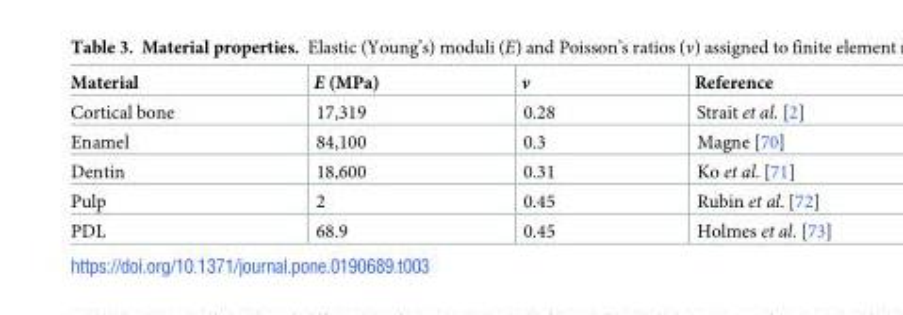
<table><thead><tr><td>Material</td><td>E (MPa)</td><td>v</td><td>Reference</td></tr></thead><tbody><tr><td>Cortical bone</td><td>17,319</td><td>0.28</td><td>Strait et al. [2]</td></tr><tr><td>Enamel</td><td>84,100</td><td>0.3</td><td>Magne [70]</td></tr><tr><td>Dentin</td><td>18,600</td><td>0.31</td><td>Ko et al. [71]</td></tr><tr><td>Pulp</td><td>2</td><td>0.45</td><td>Rubin et al. [72]</td></tr><tr><td>PDL</td><td>68.9</td><td>0.45</td><td>Holmes et al. [73]</td></tr></tbody></table>